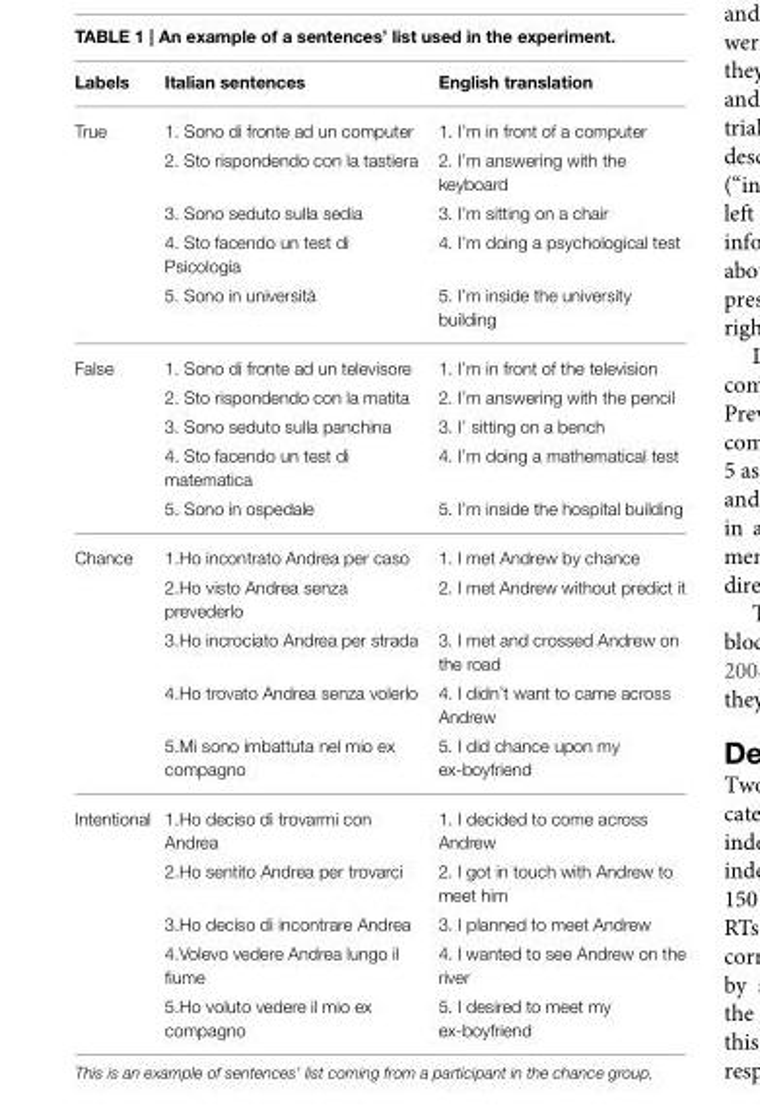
<table><thead><tr><td>Labels</td><td>Italian sentences</td><td>English translation</td></tr></thead><tbody><tr><td rowspan="5">True</td><td>1. Sono di fronte ad un computer</td><td>1. I’m in front of a computer</td></tr><tr><td>2. Sto rispondendo con la tastiera</td><td>2. I’m answering with the keyboard</td></tr><tr><td>3. Sono seduto sulla sedia</td><td>3. I’m sitting on a chair</td></tr><tr><td>4. Sto facendo un test di Psicologia</td><td>4. I’m doing a psychological test</td></tr><tr><td>5. Sono in università</td><td>5. I’m inside the university building</td></tr><tr><td rowspan="5">False</td><td>1. Sono di fronte ad un televisore</td><td>1. I’m in front of the television</td></tr><tr><td>2. Sto rispondendo con la matita</td><td>2. I’m answering with the pencil</td></tr><tr><td>3. Sono seduto sulla panchina</td><td>3. I’ sitting on a bench</td></tr><tr><td>4. Sto facendo un test di matematica</td><td>4. I’m doing a mathematical test</td></tr><tr><td>5. Sono in ospedale</td><td>5. I’m inside the hospital building</td></tr><tr><td rowspan="5">Chance</td><td>1.Ho incontrato Andrea per caso</td><td>1. I met Andrew by chance</td></tr><tr><td>2.Ho visto Andrea senza prevederlo</td><td>2. I met Andrew without predict it</td></tr><tr><td>3.Ho incrociato Andrea per strada</td><td>3. I met and crossed Andrew on the road</td></tr><tr><td>4.Ho trovato Andrea senza volerlo</td><td>4. I didn’t want to came across Andrew</td></tr><tr><td>5.Mi sono imbattuta nel mio ex compagno</td><td>5. I did chance upon my ex-boyfriend</td></tr><tr><td rowspan="5">Intentional</td><td>1.Ho deciso di trovarmi con Andrea</td><td>1. I decided to come across Andrew</td></tr><tr><td>2.Ho sentito Andrea per trovarci</td><td>2. I got in touch with Andrew to meet him</td></tr><tr><td>3.Ho deciso di incontrare Andrea</td><td>3. I planned to meet Andrew</td></tr><tr><td>4.Volevo vedere Andrea lungo il fiume</td><td>4. I wanted to see Andrew on the river</td></tr><tr><td>5.Ho voluto vedere il mio ex compagno</td><td>5. I desired to meet my ex-boyfriend</td></tr></tbody></table>